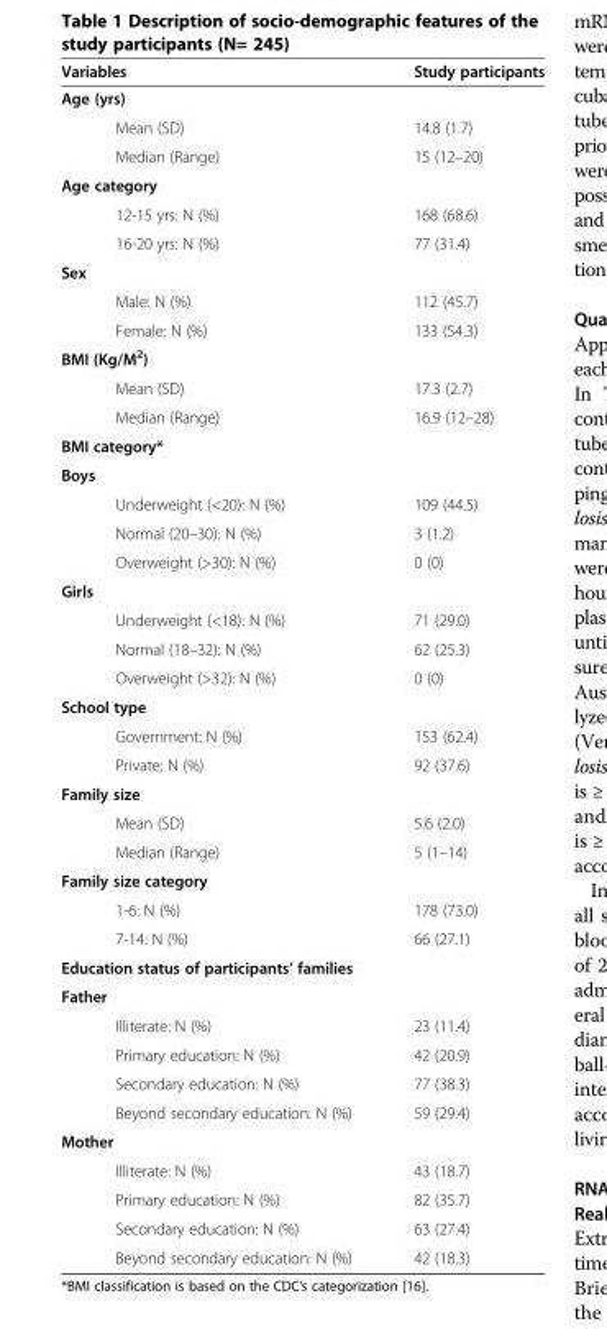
<table><thead><tr><td>Variables</td><td>Study participants</td></tr></thead><tbody><tr><td colspan="2">Age (yrs)</td></tr><tr><td>Mean (SD)</td><td>14.8 (1.7)</td></tr><tr><td>Median (Range)</td><td>15 (12–20)</td></tr><tr><td colspan="2">Age category</td></tr><tr><td>12-15 yrs: N (%)</td><td>168 (68.6)</td></tr><tr><td>16-20 yrs: N (%)</td><td>77 (31.4)</td></tr><tr><td colspan="2">Sex</td></tr><tr><td>Male: N (%)</td><td>112 (45.7)</td></tr><tr><td>Female: N (%)</td><td>133 (54.3)</td></tr><tr><td colspan="2">BMI (Kg/M<sup>2</sup>)</td></tr><tr><td>Mean (SD)</td><td>17.3 (2.7)</td></tr><tr><td>Median (Range)</td><td>16.9 (12–28)</td></tr><tr><td colspan="2">BMI category*</td></tr><tr><td colspan="2">Boys</td></tr><tr><td>Underweight (&lt;20): N (%)</td><td>109 (44.5)</td></tr><tr><td>Normal (20–30): N (%)</td><td>3 (1.2)</td></tr><tr><td>Overweight (&gt;30): N (%)</td><td>0 (0)</td></tr><tr><td colspan="2">Girls</td></tr><tr><td>Underweight (&lt;18): N (%)</td><td>71 (29.0)</td></tr><tr><td>Normal (18–32): N (%)</td><td>62 (25.3)</td></tr><tr><td>Overweight (&gt;32): N (%)</td><td>0 (0)</td></tr><tr><td colspan="2">School type</td></tr><tr><td>Government: N (%)</td><td>153 (62.4)</td></tr><tr><td>Private: N (%)</td><td>92 (37.6)</td></tr><tr><td colspan="2">Family size</td></tr><tr><td>Mean (SD)</td><td>5.6 (2.0)</td></tr><tr><td>Median (Range)</td><td>5 (1–14)</td></tr><tr><td colspan="2">Family size category</td></tr><tr><td>1-6: N (%)</td><td>178 (73.0)</td></tr><tr><td>7-14: N (%)</td><td>66 (27.1)</td></tr><tr><td colspan="2">Education status of participants’ families</td></tr><tr><td colspan="2">Father</td></tr><tr><td>Illiterate: N (%)</td><td>23 (11.4)</td></tr><tr><td>Primary education: N (%)</td><td>42 (20.9)</td></tr><tr><td>Secondary education: N (%)</td><td>77 (38.3)</td></tr><tr><td>Beyond secondary education: N (%)</td><td>59 (29.4)</td></tr><tr><td colspan="2">Mother</td></tr><tr><td>Illiterate: N (%)</td><td>43 (18.7)</td></tr><tr><td>Primary education: N (%)</td><td>82 (35.7)</td></tr><tr><td>Secondary education: N (%)</td><td>63 (27.4)</td></tr><tr><td>Beyond secondary education: N (%)</td><td>42 (18.3)</td></tr></tbody></table>